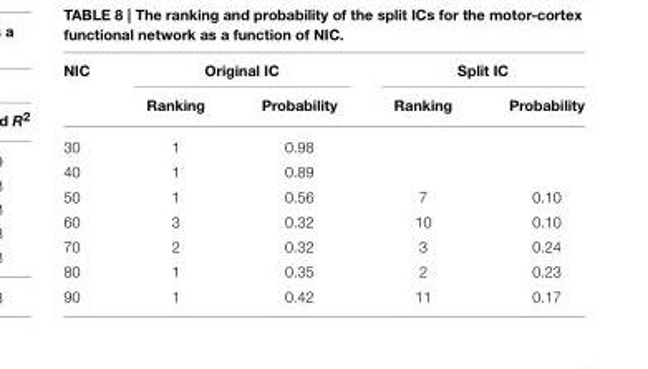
<table><thead><tr><td rowspan="2">NIC</td><td colspan="2">Original IC</td><td colspan="2">Split IC</td></tr><tr><td>Ranking</td><td>Probability</td><td>Ranking</td><td>Probability</td></tr></thead><tbody><tr><td>30</td><td>1</td><td>0.98</td><td></td><td></td></tr><tr><td>40</td><td>1</td><td>0.89</td><td></td><td></td></tr><tr><td>50</td><td>1</td><td>0.56</td><td>7</td><td>0.10</td></tr><tr><td>60</td><td>3</td><td>0.32</td><td>10</td><td>0.10</td></tr><tr><td>70</td><td>2</td><td>0.32</td><td>3</td><td>0.24</td></tr><tr><td>80</td><td>1</td><td>0.35</td><td>2</td><td>0.23</td></tr><tr><td>90</td><td>1</td><td>0.42</td><td>11</td><td>0.17</td></tr></tbody></table>